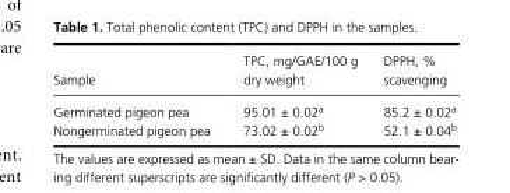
<table><thead><tr><td>Sample</td><td>TPC, mg/GAE/100 g dry weight</td><td>DPPH, % scavenging</td></tr></thead><tbody><tr><td>Germinated pigeon pea</td><td>95.01 ± 0.02<sup>a</sup></td><td>85.2 ± 0.02<sup>a</sup></td></tr><tr><td>Nongerminated pigeon pea</td><td>73.02 ± 0.02<sup>b</sup></td><td>52.1 ± 0.04<sup>b</sup></td></tr></tbody></table>